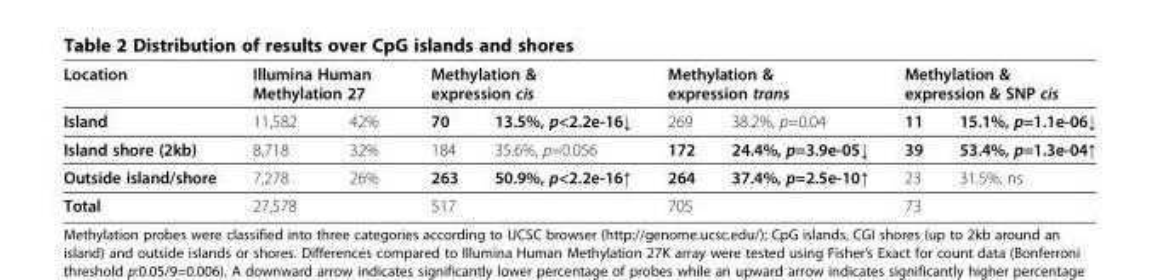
<table><thead><tr><td rowspan="2">Location Island</td><td colspan="2">Illumina Human Methylation 27</td><td colspan="2">Methylation &amp; expression cis</td><td colspan="2">Methylation &amp; expression trans</td><td colspan="2">Methylation &amp; expression &amp; SNP cis</td></tr><tr><td>11,582</td><td>42%</td><td>70</td><td>13.5%, p&lt;2.2e-16↓</td><td>269</td><td>38.2%, p=0.04</td><td>11</td><td>15.1%, p=1.1e-06↓</td></tr></thead><tbody><tr><td>Island shore (2kb)</td><td>8,718</td><td>32%</td><td>184</td><td>35.6%, p=0.056</td><td>172</td><td>24.4%, p=3.9e-05↓</td><td>39</td><td>53.4%, p=1.3e-04↑</td></tr><tr><td>Outside island/shore</td><td>7,278</td><td>26%</td><td>263</td><td>50.9%, p&lt;2.2e-16↑</td><td>264</td><td>37.4%, p=2.5e-10↑</td><td>23</td><td>31.5%, ns</td></tr><tr><td>Total</td><td>27,578</td><td></td><td>517</td><td></td><td>705</td><td></td><td>73</td><td></td></tr></tbody></table>